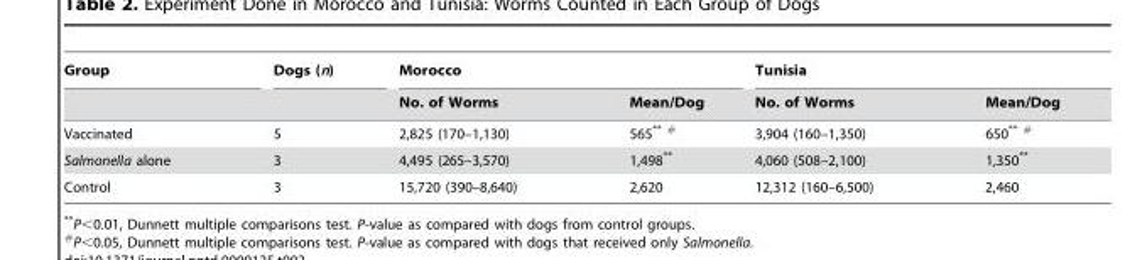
<table><thead><tr><td rowspan="2">Group</td><td rowspan="2">Dogs (n)</td><td colspan="2">Morocco</td><td colspan="2">Tunisia</td></tr><tr><td>No. of Worms</td><td>Mean/Dog</td><td>No. of Worms</td><td>Mean/Dog</td></tr></thead><tbody><tr><td>Vaccinated</td><td>5</td><td>2,825 (170–1,130)</td><td>565** #</td><td>3,904 (160–1,350)</td><td>650** #</td></tr><tr><td>Salmonella alone</td><td>3</td><td>4,495 (265–3,570)</td><td>1,498**</td><td>4,060 (508–2,100)</td><td>1,350**</td></tr><tr><td>Control</td><td>3</td><td>15,720 (390–8,640)</td><td>2,620</td><td>12,312 (160–6,500)</td><td>2,460</td></tr></tbody></table>